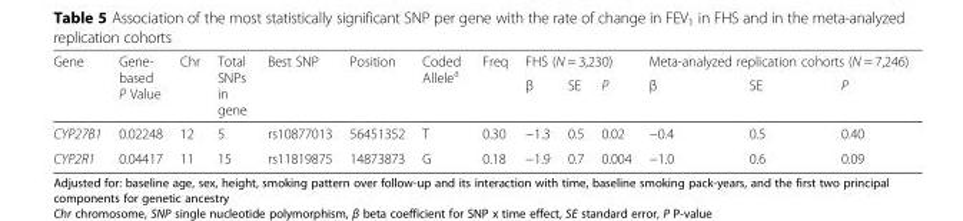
<table><thead><tr><td rowspan="2">Gene</td><td rowspan="2">Gene- based P Value</td><td rowspan="2">Chr</td><td rowspan="2">Total SNPs in gene</td><td rowspan="2">Best SNP</td><td rowspan="2">Position</td><td rowspan="2">Coded Allele<sup>a</sup></td><td rowspan="2">Freq</td><td colspan="3">FHS (N = 3,230)</td><td colspan="3">Meta-analyzed replication cohorts (N = 7,246)</td></tr><tr><td>β</td><td>SE</td><td>P</td><td>β</td><td>SE</td><td>P</td></tr></thead><tbody><tr><td>CYP27B1</td><td>0.02248</td><td>12</td><td>5</td><td>rs10877013</td><td>56451352</td><td>T</td><td>0.30</td><td>−1.3</td><td>0.5</td><td>0.02</td><td>−0.4</td><td>0.5</td><td>0.40</td></tr><tr><td>CYP2R1</td><td>0.04417</td><td>11</td><td>15</td><td>rs11819875</td><td>14873873</td><td>G</td><td>0.18</td><td>−1.9</td><td>0.7</td><td>0.004</td><td>−1.0</td><td>0.6</td><td>0.09</td></tr></tbody></table>